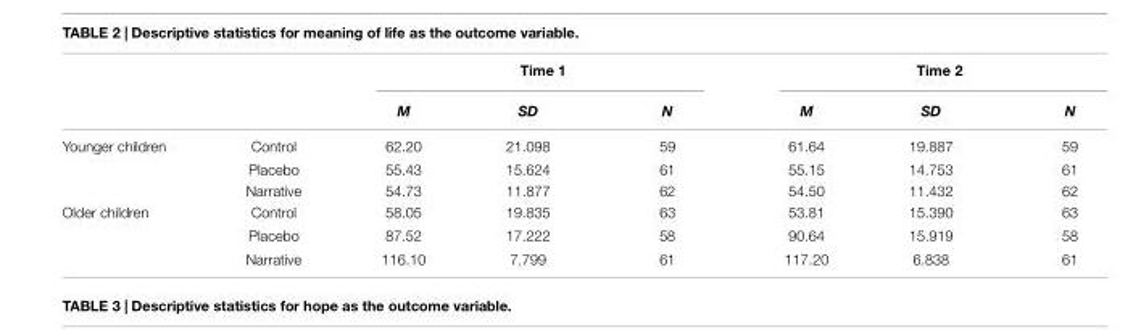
<table><thead><tr><td rowspan="2"></td><td rowspan="2"></td><td colspan="3">Time 1</td><td colspan="3">Time 2</td></tr><tr><td>M</td><td>SD</td><td>N</td><td>M</td><td>SD</td><td>N</td></tr></thead><tbody><tr><td rowspan="3">Younger children</td><td>Control</td><td>62.20</td><td>21.098</td><td>59</td><td>61.64</td><td>19.887</td><td>59</td></tr><tr><td>Placebo</td><td>55.43</td><td>15.624</td><td>61</td><td>55.15</td><td>14.753</td><td>61</td></tr><tr><td>Narrative</td><td>54.73</td><td>11.877</td><td>62</td><td>54.50</td><td>11.432</td><td>62</td></tr><tr><td rowspan="3">Older children</td><td>Control</td><td>58.05</td><td>19.835</td><td>63</td><td>53.81</td><td>15.390</td><td>63</td></tr><tr><td>Placebo</td><td>87.52</td><td>17.222</td><td>58</td><td>90.64</td><td>15.919</td><td>58</td></tr><tr><td>Narrative</td><td>116.10</td><td>7.799</td><td>61</td><td>117.20</td><td>6.838</td><td>61</td></tr></tbody></table>